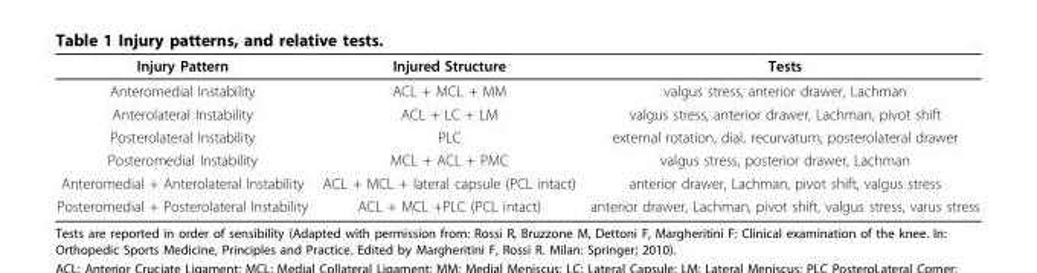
<table><thead><tr><td>Injury Pattern</td><td>Injured Structure</td><td>Tests</td></tr></thead><tbody><tr><td>Anteromedial Instability</td><td>ACL + MCL + MM</td><td>valgus stress, anterior drawer, Lachman</td></tr><tr><td>Anterolateral Instability</td><td>ACL + LC + LM</td><td>valgus stress, anterior drawer, Lachman, pivot shift</td></tr><tr><td>Posterolateral Instability</td><td>PLC</td><td>external rotation, dial, recurvatum, posterolateral drawer</td></tr><tr><td>Posteromedial Instability</td><td>MCL + ACL + PMC</td><td>valgus stress, posterior drawer, Lachman</td></tr><tr><td>Anteromedial + Anterolateral Instability</td><td>ACL + MCL + lateral capsule (PCL intact)</td><td>anterior drawer, Lachman, pivot shift, valgus stress</td></tr><tr><td>Posteromedial + Posterolateral Instability</td><td>ACL + MCL +PLC (PCL intact)</td><td>anterior drawer, Lachman, pivot shift, valgus stress, varus stress</td></tr></tbody></table>